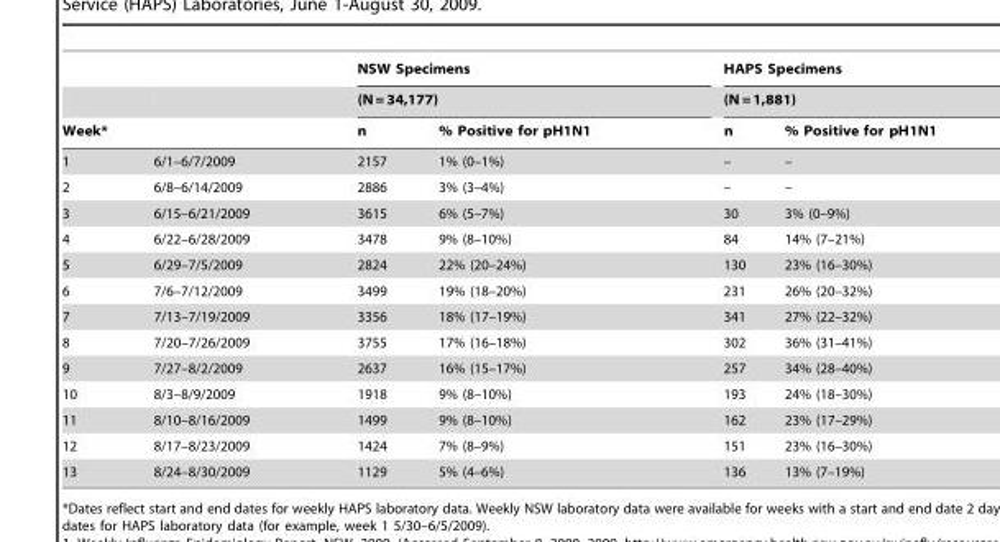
<table><thead><tr><td rowspan="3">Week*</td><td rowspan="3"></td><td rowspan="2" colspan="2">NSW Specimens (N = 34,177)</td><td rowspan="2" colspan="2">HAPS Specimens (N = 1,881)</td></tr><tr></tr><tr><td>n</td><td>% Positive for pH1N1</td><td>n</td><td>% Positive for pH1N1</td></tr></thead><tbody><tr><td>1</td><td>6/1–6/7/2009</td><td>2157</td><td>1% (0–1%)</td><td>–</td><td>–</td></tr><tr><td>2</td><td>6/8–6/14/2009</td><td>2886</td><td>3% (3–4%)</td><td>–</td><td>–</td></tr><tr><td>3</td><td>6/15–6/21/2009</td><td>3615</td><td>6% (5–7%)</td><td>30</td><td>3% (0–9%)</td></tr><tr><td>4</td><td>6/22–6/28/2009</td><td>3478</td><td>9% (8–10%)</td><td>84</td><td>14% (7–21%)</td></tr><tr><td>5</td><td>6/29–7/5/2009</td><td>2824</td><td>22% (20–24%)</td><td>130</td><td>23% (16–30%)</td></tr><tr><td>6</td><td>7/6–7/12/2009</td><td>3499</td><td>19% (18–20%)</td><td>231</td><td>26% (20–32%)</td></tr><tr><td>7</td><td>7/13–7/19/2009</td><td>3356</td><td>18% (17–19%)</td><td>341</td><td>27% (22–32%)</td></tr><tr><td>8</td><td>7/20–7/26/2009</td><td>3755</td><td>17% (16–18%)</td><td>302</td><td>36% (31–41%)</td></tr><tr><td>9</td><td>7/27–8/2/2009</td><td>2637</td><td>16% (15–17%)</td><td>257</td><td>34% (28–40%)</td></tr><tr><td>10</td><td>8/3–8/9/2009</td><td>1918</td><td>9% (8–10%)</td><td>193</td><td>24% (18–30%)</td></tr><tr><td>11</td><td>8/10–8/16/2009</td><td>1499</td><td>9% (8–10%)</td><td>162</td><td>23% (17–29%)</td></tr><tr><td>12</td><td>8/17–8/23/2009</td><td>1424</td><td>7% (8–9%)</td><td>151</td><td>23% (16–30%)</td></tr><tr><td>13</td><td>8/24–8/30/2009</td><td>1129</td><td>5% (4–6%)</td><td>136</td><td>13% (7–19%)</td></tr></tbody></table>